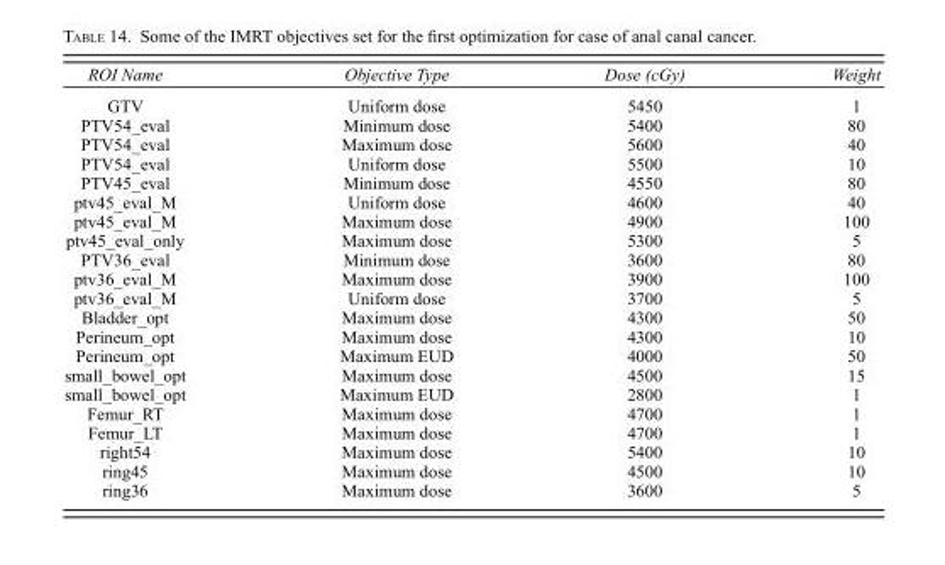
<table><thead><tr><td>ROI Name</td><td>Objective Type</td><td>Dose (cGy)</td><td>Weight</td></tr></thead><tbody><tr><td>GTV</td><td>Uniform dose</td><td>5450</td><td>1</td></tr><tr><td>PTV54_eval</td><td>Minimum dose</td><td>5400</td><td>80</td></tr><tr><td>PTV54_eval</td><td>Maximum dose</td><td>5600</td><td>40</td></tr><tr><td>PTV54_eval</td><td>Uniform dose</td><td>5500</td><td>10</td></tr><tr><td>PTV45_eval</td><td>Minimum dose</td><td>4550</td><td>80</td></tr><tr><td>ptv45_eval_M</td><td>Uniform dose</td><td>4600</td><td>40</td></tr><tr><td>ptv45_eval_M</td><td>Maximum dose</td><td>4900</td><td>100</td></tr><tr><td>ptv45_eval_only</td><td>Maximum dose</td><td>5300</td><td>5</td></tr><tr><td>PTV36_eval</td><td>Minimum dose</td><td>3600</td><td>80</td></tr><tr><td>ptv36_eval_M</td><td>Maximum dose</td><td>3900</td><td>100</td></tr><tr><td>ptv36_eval_M</td><td>Uniform dose</td><td>3700</td><td>5</td></tr><tr><td>Bladder_opt</td><td>Maximum dose</td><td>4300</td><td>50</td></tr><tr><td>Perineum_opt</td><td>Maximum dose</td><td>4300</td><td>10</td></tr><tr><td>Perineum_opt</td><td>Maximum EUD</td><td>4000</td><td>50</td></tr><tr><td>small_bowel_opt</td><td>Maximum dose</td><td>4500</td><td>15</td></tr><tr><td>small_bowel_opt</td><td>Maximum EUD</td><td>2800</td><td>1</td></tr><tr><td>Femur_RT</td><td>Maximum dose</td><td>4700</td><td>1</td></tr><tr><td>Femur_LT</td><td>Maximum dose</td><td>4700</td><td>1</td></tr><tr><td>right54</td><td>Maximum dose</td><td>5400</td><td>10</td></tr><tr><td>ring45</td><td>Maximum dose</td><td>4500</td><td>10</td></tr><tr><td>ring36</td><td>Maximum dose</td><td>3600</td><td>5</td></tr></tbody></table>